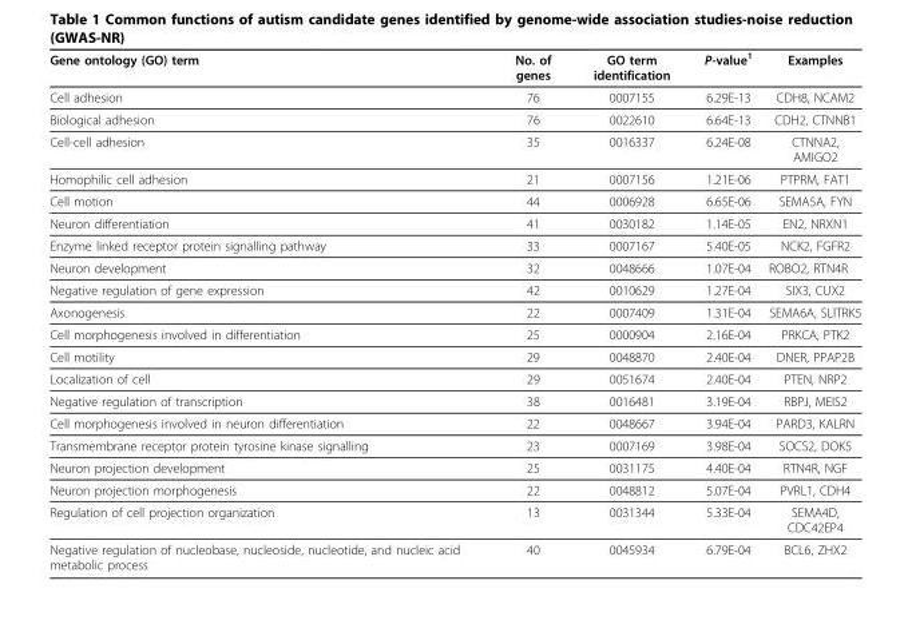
<table><thead><tr><td>Gene ontology (GO) term</td><td>No. of genes</td><td>GO term identification</td><td>P-value<sup>1</sup></td><td>Examples</td></tr></thead><tbody><tr><td>Cell adhesion</td><td>76</td><td>0007155</td><td>6.29E-13</td><td>CDH8, NCAM2</td></tr><tr><td>Biological adhesion</td><td>76</td><td>0022610</td><td>6.64E-13</td><td>CDH2, CTNNB1</td></tr><tr><td>Cell-cell adhesion</td><td>35</td><td>0016337</td><td>6.24E-08</td><td>CTNNA2, AMIGO2</td></tr><tr><td>Homophilic cell adhesion</td><td>21</td><td>0007156</td><td>1.21E-06</td><td>PTPRM, FAT1</td></tr><tr><td>Cell motion</td><td>44</td><td>0006928</td><td>6.65E-06</td><td>SEMA5A, FYN</td></tr><tr><td>Neuron differentiation</td><td>41</td><td>0030182</td><td>1.14E-05</td><td>EN2, NRXN1</td></tr><tr><td>Enzyme linked receptor protein signalling pathway</td><td>33</td><td>0007167</td><td>5.40E-05</td><td>NCK2, FGFR2</td></tr><tr><td>Neuron development</td><td>32</td><td>0048666</td><td>1.07E-04</td><td>ROBO2, RTN4R</td></tr><tr><td>Negative regulation of gene expression</td><td>42</td><td>0010629</td><td>1.27E-04</td><td>SIX3, CUX2</td></tr><tr><td>Axonogenesis</td><td>22</td><td>0007409</td><td>1.31E-04</td><td>SEMA6A, SLITRK5</td></tr><tr><td>Cell morphogenesis involved in differentiation</td><td>25</td><td>0000904</td><td>2.16E-04</td><td>PRKCA, PTK2</td></tr><tr><td>Cell motility</td><td>29</td><td>0048870</td><td>2.40E-04</td><td>DNER, PPAP2B</td></tr><tr><td>Localization of cell</td><td>29</td><td>0051674</td><td>2.40E-04</td><td>PTEN, NRP2</td></tr><tr><td>Negative regulation of transcription</td><td>38</td><td>0016481</td><td>3.19E-04</td><td>RBPJ, MEIS2</td></tr><tr><td>Cell morphogenesis involved in neuron differentiation</td><td>22</td><td>0048667</td><td>3.94E-04</td><td>PARD3, KALRN</td></tr><tr><td>Transmembrane receptor protein tyrosine kinase signalling</td><td>23</td><td>0007169</td><td>3.98E-04</td><td>SOCS2, DOK5</td></tr><tr><td>Neuron projection development</td><td>25</td><td>0031175</td><td>4.40E-04</td><td>RTN4R, NGF</td></tr><tr><td>Neuron projection morphogenesis</td><td>22</td><td>0048812</td><td>5.07E-04</td><td>PVRL1, CDH4</td></tr><tr><td>Regulation of cell projection organization</td><td>13</td><td>0031344</td><td>5.33E-04</td><td>SEMA4D, CDC42EP4</td></tr><tr><td>Negative regulation of nucleobase, nucleoside, nucleotide, and nucleic acid metabolic process</td><td>40</td><td>0045934</td><td>6.79E-04</td><td>BCL6, ZHX2</td></tr></tbody></table>